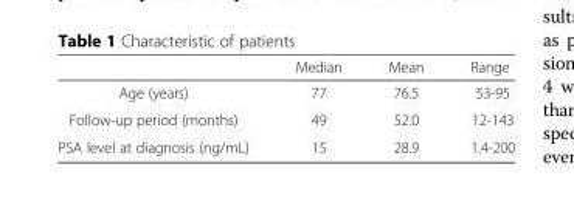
<table><thead><tr><td></td><td>Median</td><td>Mean</td><td>Range</td></tr></thead><tbody><tr><td>Age (years)</td><td>77</td><td>76.5</td><td>53-95</td></tr><tr><td>Follow-up period (months)</td><td>49</td><td>52.0</td><td>12-143</td></tr><tr><td>PSA level at diagnosis (ng/mL)</td><td>15</td><td>28.9</td><td>1.4-200</td></tr></tbody></table>